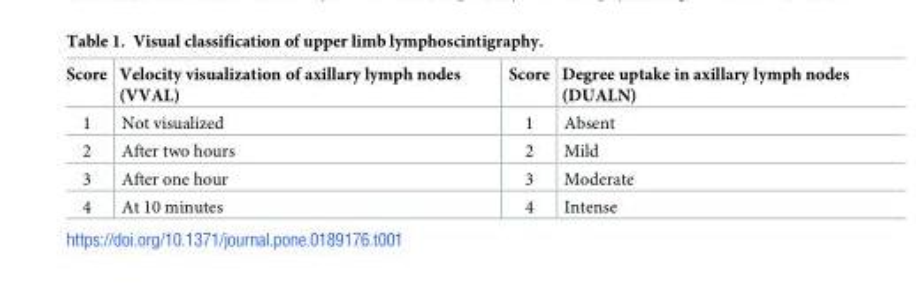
<table><thead><tr><td>Score</td><td>Velocity visualization of axillary lymph nodes (VVAL)</td><td>Score</td><td>Degree uptake in axillary lymph nodes (DUALN)</td></tr></thead><tbody><tr><td>1</td><td>Not visualized</td><td>1</td><td>Absent</td></tr><tr><td>2</td><td>After two hours</td><td>2</td><td>Mild</td></tr><tr><td>3</td><td>After one hour</td><td>3</td><td>Moderate</td></tr><tr><td>4</td><td>At 10 minutes</td><td>4</td><td>Intense</td></tr></tbody></table>